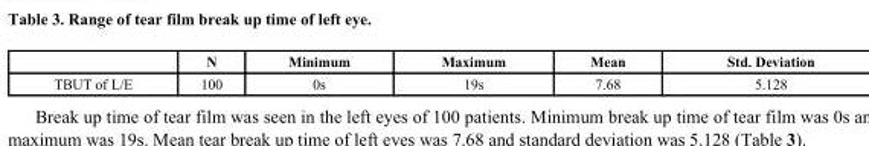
<table><thead><tr><td></td><td>N</td><td>Minimum</td><td>Maximum</td><td>Mean</td><td>Std. Deviation</td></tr></thead><tbody><tr><td>TBUT of L/E</td><td>100</td><td>0s</td><td>19s</td><td>7.68</td><td>5.128</td></tr></tbody></table>